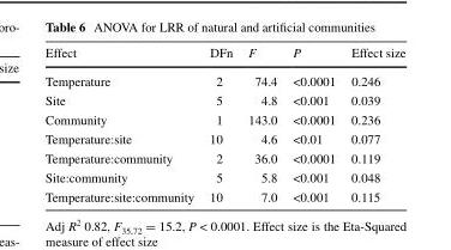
<table><thead><tr><td>Effect</td><td>DFn</td><td>F</td><td>P</td><td>Effect size</td></tr></thead><tbody><tr><td>Temperature</td><td>2</td><td>74.4</td><td>&lt;0.0001</td><td>0.246</td></tr><tr><td>Site</td><td>5</td><td>4.8</td><td>&lt;0.001</td><td>0.039</td></tr><tr><td>Community</td><td>1</td><td>143.0</td><td>&lt;0.0001</td><td>0.236</td></tr><tr><td>Temperature:site</td><td>10</td><td>4.6</td><td>&lt;0.01</td><td>0.077</td></tr><tr><td>Temperature:community</td><td>2</td><td>36.0</td><td>&lt;0.0001</td><td>0.119</td></tr><tr><td>Site:community</td><td>5</td><td>5.8</td><td>&lt;0.001</td><td>0.048</td></tr><tr><td>Temperature:site:community</td><td>10</td><td>7.0</td><td>&lt;0.001</td><td>0.115</td></tr></tbody></table>